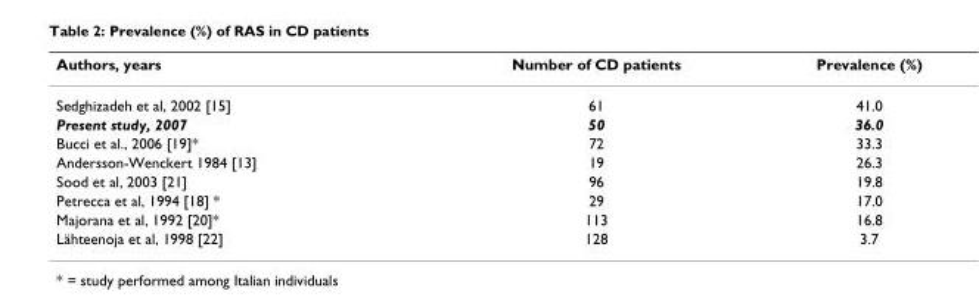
<table><thead><tr><td>Authors, years</td><td>Number of CD patients</td><td>Prevalence (%)</td></tr></thead><tbody><tr><td>Sedghizadeh et al, 2002 [15]</td><td>61</td><td>41.0</td></tr><tr><td>Present study, 2007</td><td>50</td><td>36.0</td></tr><tr><td>Bucci et al., 2006 [19]*</td><td>72</td><td>33.3</td></tr><tr><td>Andersson-Wenckert 1984 [13]</td><td>19</td><td>26.3</td></tr><tr><td>Sood et al, 2003 [21]</td><td>96</td><td>19.8</td></tr><tr><td>Petrecca et al, 1994 [18] *</td><td>29</td><td>17.0</td></tr><tr><td>Majorana et al, 1992 [20]*</td><td>113</td><td>16.8</td></tr><tr><td>Lähteenoja et al, 1998 [22]</td><td>128</td><td>3.7</td></tr></tbody></table>